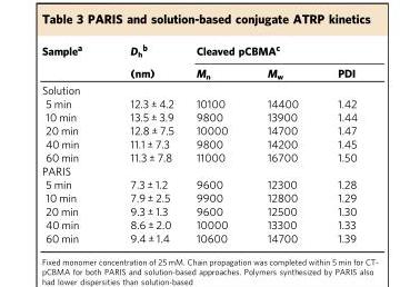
<table><thead><tr><td rowspan="2">Sample<sup>a</sup></td><td rowspan="2">D<sub>h</sub><sup>b</sup> (nm)</td><td colspan="3">Cleaved pCBMA<sup>c</sup></td></tr><tr><td>M<sub>n</sub></td><td>M<sub>w</sub></td><td>PDI</td></tr></thead><tbody><tr><td colspan="5">Solution</td></tr><tr><td>5 min</td><td>12.3 ± 4.2</td><td>10100</td><td>14400</td><td>1.42</td></tr><tr><td>10 min</td><td>13.5 ± 3.9</td><td>9800</td><td>13900</td><td>1.44</td></tr><tr><td>20 min</td><td>12.8 ± 7.5</td><td>10000</td><td>14700</td><td>1.47</td></tr><tr><td>40 min</td><td>11.1 ± 7.3</td><td>9800</td><td>14200</td><td>1.45</td></tr><tr><td>60 min</td><td>11.3 ± 7.8</td><td>11000</td><td>16700</td><td>1.50</td></tr><tr><td colspan="5">PARIS</td></tr><tr><td>5 min</td><td>7.3 ± 1.2</td><td>9600</td><td>12300</td><td>1.28</td></tr><tr><td>10 min</td><td>7.9 ± 2.5</td><td>9900</td><td>12800</td><td>1.29</td></tr><tr><td>20 min</td><td>9.3 ± 1.3</td><td>9600</td><td>12500</td><td>1.30</td></tr><tr><td>40 min</td><td>8.6 ± 2.0</td><td>10000</td><td>13300</td><td>1.33</td></tr><tr><td>60 min</td><td>9.4 ± 1.4</td><td>10600</td><td>14700</td><td>1.39</td></tr></tbody></table>